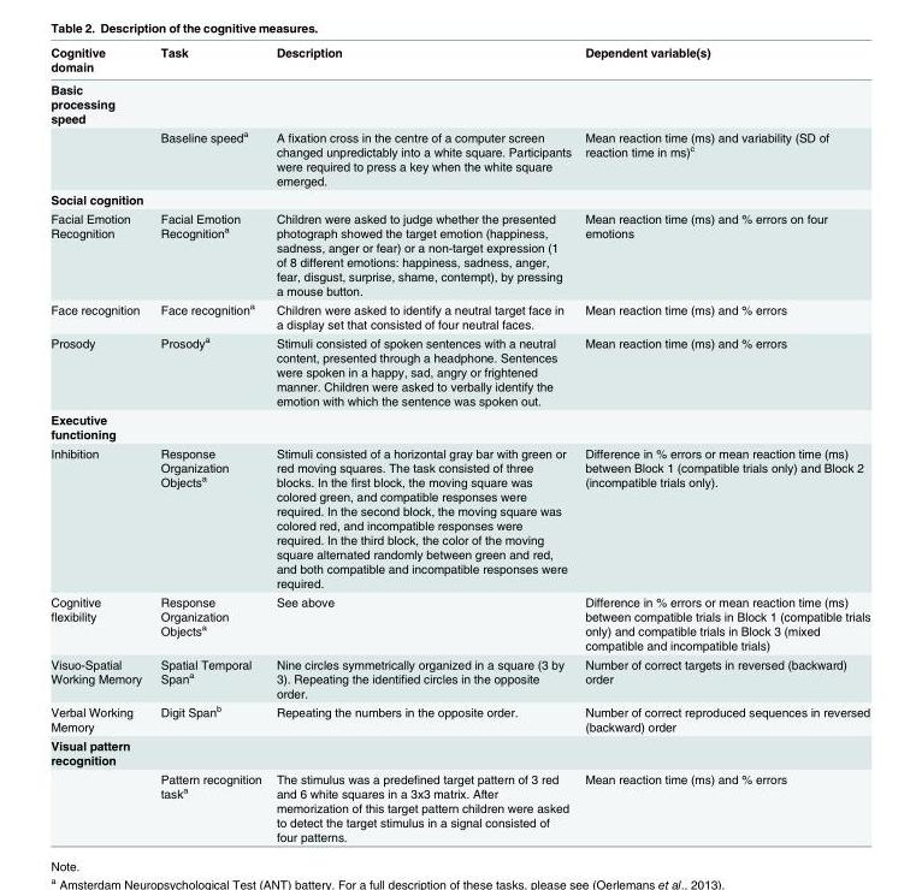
<table><thead><tr><td>Cognitive domain</td><td>Task</td><td>Description</td><td>Dependent variable(s)</td></tr></thead><tbody><tr><td colspan="4">Basic processing speed</td></tr><tr><td></td><td>Baseline speed<sup>a</sup></td><td>A fixation cross in the centre of a computer screen changed unpredictably into a white square. Participants were required to press a key when the white square emerged.</td><td>Mean reaction time (ms) and variability (SD of reaction time in ms)<sup>c</sup></td></tr><tr><td colspan="4">Social cognition</td></tr><tr><td>Facial Emotion Recognition</td><td>Facial Emotion Recognition<sup>a</sup></td><td>Children were asked to judge whether the presented photograph showed the target emotion (happiness, sadness, anger or fear) or a non-target expression (1 of 8 different emotions: happiness, sadness, anger, fear, disgust, surprise, shame, contempt), by pressing a mouse button.</td><td>Mean reaction time (ms) and % errors on four emotions</td></tr><tr><td>Face recognition</td><td>Face recognition<sup>a</sup></td><td>Children were asked to identify a neutral target face in a display set that consisted of four neutral faces.</td><td>Mean reaction time (ms) and % errors</td></tr><tr><td>Prosody</td><td>Prosody<sup>a</sup></td><td>Stimuli consisted of spoken sentences with a neutral content, presented through a headphone. Sentences were spoken in a happy, sad, angry or frightened manner. Children were asked to verbally identify the emotion with which the sentence was spoken out.</td><td>Mean reaction time (ms) and % errors</td></tr><tr><td colspan="4">Executive functioning</td></tr><tr><td>Inhibition</td><td>Response Organization Objects<sup>a</sup></td><td>Stimuli consisted of a horizontal gray bar with green or red moving squares. The task consisted of three blocks. In the first block, the moving square was colored green, and compatible responses were required. In the second block, the moving square was colored red, and incompatible responses were required. In the third block, the color of the moving square alternated randomly between green and red, and both compatible and incompatible responses were required.</td><td>Difference in % errors or mean reaction time (ms) between Block 1 (compatible trials only) and Block 2 (incompatible trials only).</td></tr><tr><td>Cognitive flexibility</td><td>Response Organization Objects<sup>a</sup></td><td>See above</td><td>Difference in % errors or mean reaction time (ms) between compatible trials in Block 1 (compatible trials only) and compatible trials in Block 3 (mixed compatible and incompatible trials)</td></tr><tr><td>Visuo-Spatial Working Memory</td><td>Spatial Temporal Span<sup>a</sup></td><td>Nine circles symmetrically organized in a square (3 by 3). Repeating the identified circles in the opposite order.</td><td>Number of correct targets in reversed (backward) order</td></tr><tr><td>Verbal Working Memory</td><td>Digit Span<sup>b</sup></td><td>Repeating the numbers in the opposite order.</td><td>Number of correct reproduced sequences in reversed (backward) order</td></tr><tr><td colspan="4">Visual pattern recognition</td></tr><tr><td></td><td>Pattern recognition task<sup>a</sup></td><td>The stimulus was a predefined target pattern of 3 red and 6 white squares in a 3x3 matrix. After memorization of this target pattern children were asked to detect the target stimulus in a signal consisted of four patterns.</td><td>Mean reaction time (ms) and % errors</td></tr></tbody></table>